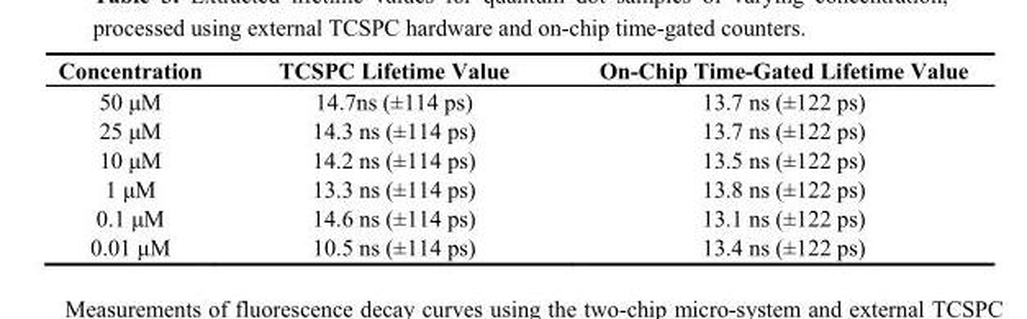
<table><thead><tr><td>Concentration</td><td>TCSPC Lifetime Value</td><td>On-Chip Time-Gated Lifetime Value</td></tr></thead><tbody><tr><td>50 μM</td><td>14.7ns (±114 ps)</td><td>13.7 ns (±122 ps)</td></tr><tr><td>25 μM</td><td>14.3 ns (±114 ps)</td><td>13.7 ns (±122 ps)</td></tr><tr><td>10 μM</td><td>14.2 ns (±114 ps)</td><td>13.5 ns (±122 ps)</td></tr><tr><td>1 μM</td><td>13.3 ns (±114 ps)</td><td>13.8 ns (±122 ps)</td></tr><tr><td>0.1 μM</td><td>14.6 ns (±114 ps)</td><td>13.1 ns (±122 ps)</td></tr><tr><td>0.01 μM</td><td>10.5 ns (±114 ps)</td><td>13.4 ns (±122 ps)</td></tr></tbody></table>